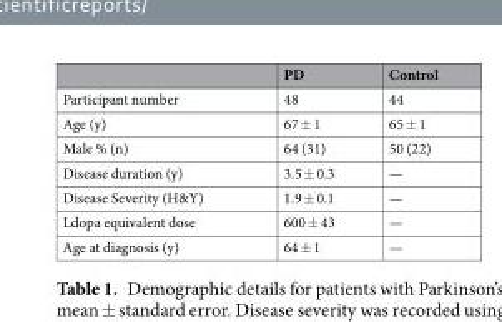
<table><thead><tr><td></td><td>PD</td><td>Control</td></tr></thead><tbody><tr><td>Participant number</td><td>48</td><td>44</td></tr><tr><td>Age (y)</td><td>67 ± 1</td><td>65 ± 1</td></tr><tr><td>Male % (n)</td><td>64 (31)</td><td>50 (22)</td></tr><tr><td>Disease duration (y)</td><td>3.5 ± 0.3</td><td>—</td></tr><tr><td>Disease Severity (H&amp;Y)</td><td>1.9 ± 0.1</td><td>—</td></tr><tr><td>Ldopa equivalent dose</td><td>600 ± 43</td><td>—</td></tr><tr><td>Age at diagnosis (y)</td><td>64 ± 1</td><td>—</td></tr></tbody></table>